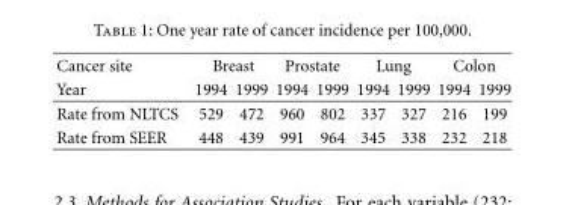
<table><thead><tr><td rowspan="2">Cancer site Year</td><td colspan="2">Breast</td><td colspan="2">Prostate</td><td colspan="2">Lung</td><td colspan="2">Colon</td></tr><tr><td>1994</td><td>1999</td><td>1994</td><td>1999</td><td>1994</td><td>1999</td><td>1994</td><td>1999</td></tr></thead><tbody><tr><td>Rate from NLTCS</td><td>529</td><td>472</td><td>960</td><td>802</td><td>337</td><td>327</td><td>216</td><td>199</td></tr><tr><td>Rate from SEER</td><td>448</td><td>439</td><td>991</td><td>964</td><td>345</td><td>338</td><td>232</td><td>218</td></tr></tbody></table>